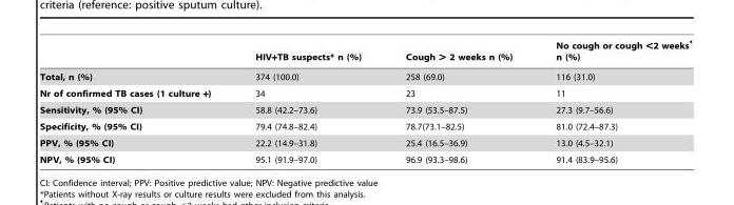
<table><thead><tr><td></td><td>HIV+TB suspects* n (%)</td><td>Cough &gt; 2 weeks n (%)</td><td>No cough or cough &lt;2 weeks¶ n (%)</td></tr></thead><tbody><tr><td>Total, n (%)</td><td>374 (100.0)</td><td>258 (69.0)</td><td>116 (31.0)</td></tr><tr><td>Nr of confirmed TB cases (1 culture +)</td><td>34</td><td>23</td><td>11</td></tr><tr><td>Sensitivity, % (95% CI)</td><td>58.8 (42.2–73.6)</td><td>73.9 (53.5–87.5)</td><td>27.3 (9.7–56.6)</td></tr><tr><td>Specificity, % (95% CI)</td><td>79.4 (74.8–82.4)</td><td>78.7(73.1–82.5)</td><td>81.0 (72.4–87.3)</td></tr><tr><td>PPV, % (95% CI)</td><td>22.2 (14.9–31.8)</td><td>25.4 (16.5–36.9)</td><td>13.0 (4.5–32.1)</td></tr><tr><td>NPV, % (95% CI)</td><td>95.1 (91.9–97.0)</td><td>96.9 (93.3–98.6)</td><td>91.4 (83.9–95.6)</td></tr></tbody></table>